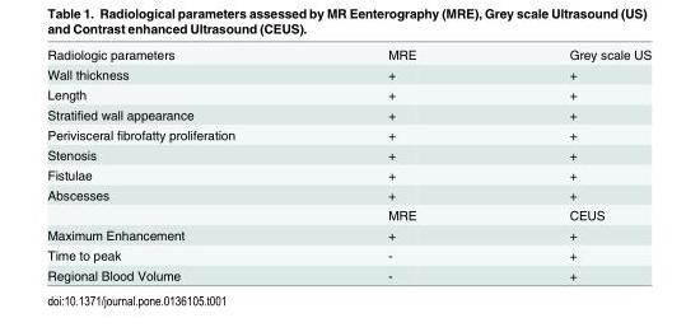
<table><tbody><tr><td>Radiologic parameters</td><td>MRE</td><td>Grey scale US</td></tr><tr><td>Wall thickness</td><td>+</td><td>+</td></tr><tr><td>Length</td><td>+</td><td>+</td></tr><tr><td>Stratified wall appearance</td><td>+</td><td>+</td></tr><tr><td>Perivisceral fibrofatty proliferation</td><td>+</td><td>+</td></tr><tr><td>Stenosis</td><td>+</td><td>+</td></tr><tr><td>Fistulae</td><td>+</td><td>+</td></tr><tr><td rowspan="2">Abscesses</td><td>+</td><td>+</td></tr><tr><td>MRE</td><td>CEUS</td></tr><tr><td>Maximum Enhancement</td><td>+</td><td>+</td></tr><tr><td>Time to peak</td><td>-</td><td>+</td></tr><tr><td>Regional Blood Volume</td><td>-</td><td>+</td></tr></tbody></table>